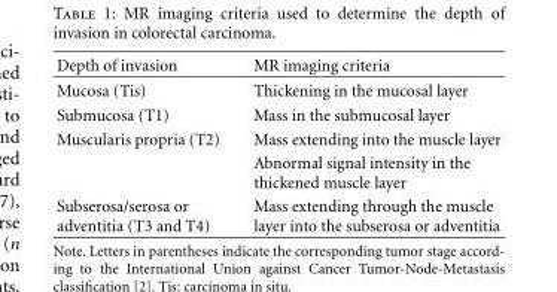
<table><thead><tr><td>Depth of invasion</td><td>MR imaging criteria</td></tr></thead><tbody><tr><td>Mucosa (Tis)</td><td>Thickening in the mucosal layer</td></tr><tr><td>Submucosa (T1)</td><td>Mass in the submucosal layer</td></tr><tr><td rowspan="2">Muscularis propria (T2)</td><td>Mass extending into the muscle layer</td></tr><tr><td>Abnormal signal intensity in the thickened muscle layer</td></tr><tr><td>Subserosa/serosa or adventitia (T3 and T4)</td><td>Mass extending through the muscle layer into the subserosa or adventitia</td></tr></tbody></table>